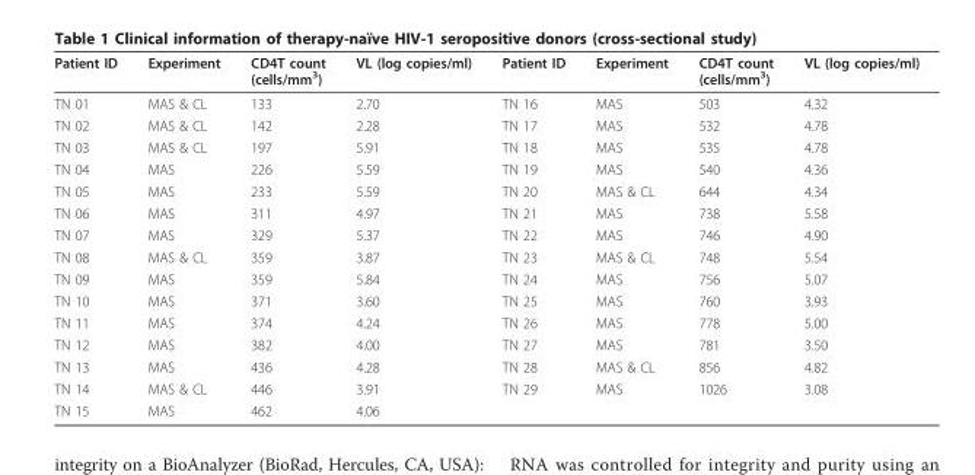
<table><thead><tr><td>Patient ID</td><td>Experiment</td><td>CD4T count (cells/mm<sup>3</sup>)</td><td>VL (log copies/ml)</td><td>Patient ID</td><td>Experiment</td><td>CD4T count (cells/mm<sup>3</sup>)</td><td>VL (log copies/ml)</td></tr></thead><tbody><tr><td>TN 01</td><td>MAS &amp; CL</td><td>133</td><td>2.70</td><td>TN 16</td><td>MAS</td><td>503</td><td>4.32</td></tr><tr><td>TN 02</td><td>MAS &amp; CL</td><td>142</td><td>2.28</td><td>TN 17</td><td>MAS</td><td>532</td><td>4.78</td></tr><tr><td>TN 03</td><td>MAS &amp; CL</td><td>197</td><td>5.91</td><td>TN 18</td><td>MAS</td><td>535</td><td>4.78</td></tr><tr><td>TN 04</td><td>MAS</td><td>226</td><td>5.59</td><td>TN 19</td><td>MAS</td><td>540</td><td>4.36</td></tr><tr><td>TN 05</td><td>MAS</td><td>233</td><td>5.59</td><td>TN 20</td><td>MAS &amp; CL</td><td>644</td><td>4.34</td></tr><tr><td>TN 06</td><td>MAS</td><td>311</td><td>4.97</td><td>TN 21</td><td>MAS</td><td>738</td><td>5.58</td></tr><tr><td>TN 07</td><td>MAS</td><td>329</td><td>5.37</td><td>TN 22</td><td>MAS</td><td>746</td><td>4.90</td></tr><tr><td>TN 08</td><td>MAS &amp; CL</td><td>359</td><td>3.87</td><td>TN 23</td><td>MAS &amp; CL</td><td>748</td><td>5.54</td></tr><tr><td>TN 09</td><td>MAS</td><td>359</td><td>5.84</td><td>TN 24</td><td>MAS</td><td>756</td><td>5.07</td></tr><tr><td>TN 10</td><td>MAS</td><td>371</td><td>3.60</td><td>TN 25</td><td>MAS</td><td>760</td><td>3.93</td></tr><tr><td>TN 11</td><td>MAS</td><td>374</td><td>4.24</td><td>TN 26</td><td>MAS</td><td>778</td><td>5.00</td></tr><tr><td>TN 12</td><td>MAS</td><td>382</td><td>4.00</td><td>TN 27</td><td>MAS</td><td>781</td><td>3.50</td></tr><tr><td>TN 13</td><td>MAS</td><td>436</td><td>4.28</td><td>TN 28</td><td>MAS &amp; CL</td><td>856</td><td>4.82</td></tr><tr><td>TN 14</td><td>MAS &amp; CL</td><td>446</td><td>3.91</td><td>TN 29</td><td>MAS</td><td>1026</td><td>3.08</td></tr><tr><td>TN 15</td><td>MAS</td><td>462</td><td>4.06</td><td></td><td></td><td></td><td></td></tr></tbody></table>